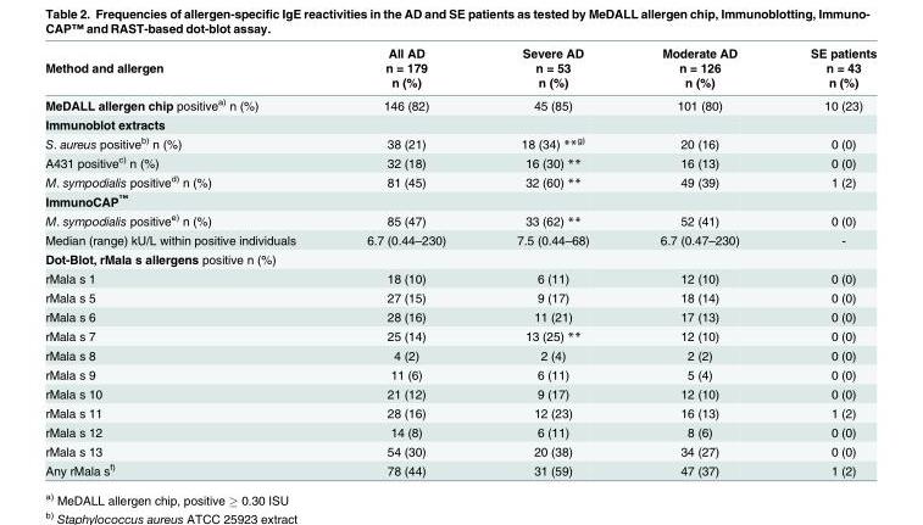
<table><thead><tr><td rowspan="3">Method and allergen</td><td rowspan="3">All AD n = 179 n (%)</td><td rowspan="3">Severe AD n = 53 n (%)</td><td rowspan="3">Moderate AD n = 126 n (%)</td><td rowspan="3">SE patients n = 43 n (%)</td></tr><tr></tr><tr></tr></thead><tbody><tr><td>MeDALL allergen chip positive<sup>a)</sup> n (%)</td><td>146 (82)</td><td>45 (85)</td><td>101 (80)</td><td>10 (23)</td></tr><tr><td colspan="5">Immunoblot extracts</td></tr><tr><td>S. aureus positive<sup>b)</sup> n (%)</td><td>38 (21)</td><td>18 (34) **<sup>g)</sup></td><td>20 (16)</td><td>0 (0)</td></tr><tr><td>A431 positive<sup>c)</sup> n (%)</td><td>32 (18)</td><td>16 (30) **</td><td>16 (13)</td><td>0 (0)</td></tr><tr><td>M. sympodialis positive<sup>d)</sup> n (%)</td><td>81 (45)</td><td>32 (60) **</td><td>49 (39)</td><td>1 (2)</td></tr><tr><td colspan="5">ImmunoCAP<sup>™</sup></td></tr><tr><td>M. sympodialis positive<sup>e)</sup> n (%)</td><td>85 (47)</td><td>33 (62) **</td><td>52 (41)</td><td>0 (0)</td></tr><tr><td>Median (range) kU/L within positive individuals</td><td>6.7 (0.44–230)</td><td>7.5 (0.44–68)</td><td>6.7 (0.47–230)</td><td>-</td></tr><tr><td colspan="5">Dot-Blot, rMala s allergens positive n (%)</td></tr><tr><td>rMala s 1</td><td>18 (10)</td><td>6 (11)</td><td>12 (10)</td><td>0 (0)</td></tr><tr><td>rMala s 5</td><td>27 (15)</td><td>9 (17)</td><td>18 (14)</td><td>0 (0)</td></tr><tr><td>rMala s 6</td><td>28 (16)</td><td>11 (21)</td><td>17 (13)</td><td>0 (0)</td></tr><tr><td>rMala s 7</td><td>25 (14)</td><td>13 (25) **</td><td>12 (10)</td><td>0 (0)</td></tr><tr><td>rMala s 8</td><td>4 (2)</td><td>2 (4)</td><td>2 (2)</td><td>0 (0)</td></tr><tr><td>rMala s 9</td><td>11 (6)</td><td>6 (11)</td><td>5 (4)</td><td>0 (0)</td></tr><tr><td>rMala s 10</td><td>21 (12)</td><td>9 (17)</td><td>12 (10)</td><td>0 (0)</td></tr><tr><td>rMala s 11</td><td>28 (16)</td><td>12 (23)</td><td>16 (13)</td><td>1 (2)</td></tr><tr><td>rMala s 12</td><td>14 (8)</td><td>6 (11)</td><td>8 (6)</td><td>0 (0)</td></tr><tr><td>rMala s 13</td><td>54 (30)</td><td>20 (38)</td><td>34 (27)</td><td>0 (0)</td></tr><tr><td>Any rMala s<sup>f)</sup></td><td>78 (44)</td><td>31 (59)</td><td>47 (37)</td><td>1 (2)</td></tr></tbody></table>